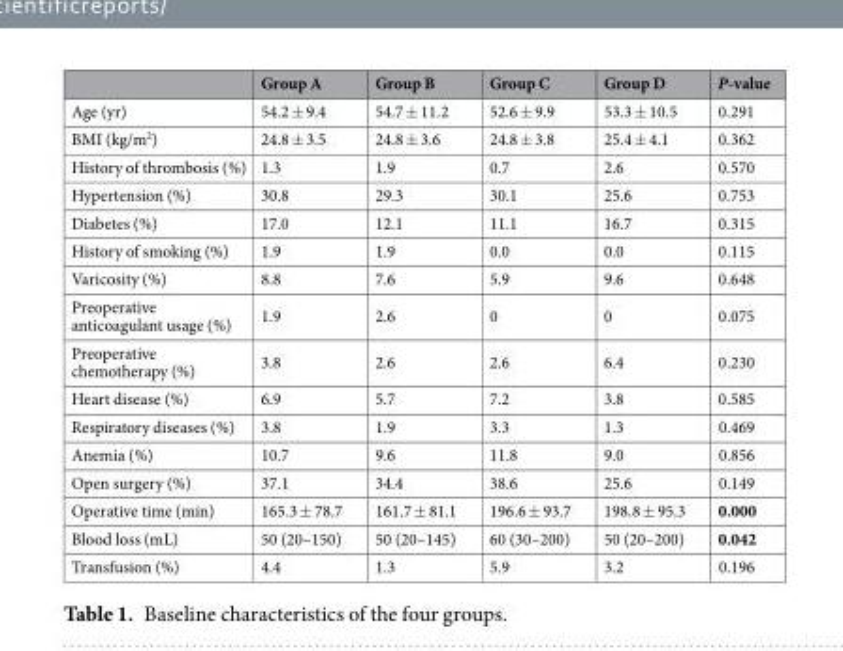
<table><thead><tr><td></td><td>Group A</td><td>Group B</td><td>Group C</td><td>Group D</td><td>P-value</td></tr></thead><tbody><tr><td>Age (yr)</td><td>54.2 ± 9.4</td><td>54.7 ± 11.2</td><td>52.6 ± 9.9</td><td>53.3 ± 10.5</td><td>0.291</td></tr><tr><td>BMI (kg/m<sup>2</sup>)</td><td>24.8 ± 3.5</td><td>24.8 ± 3.6</td><td>24.8 ± 3.8</td><td>25.4 ± 4.1</td><td>0.362</td></tr><tr><td>History of thrombosis (%)</td><td>1.3</td><td>1.9</td><td>0.7</td><td>2.6</td><td>0.570</td></tr><tr><td>Hypertension (%)</td><td>30.8</td><td>29.3</td><td>30.1</td><td>25.6</td><td>0.753</td></tr><tr><td>Diabetes (%)</td><td>17.0</td><td>12.1</td><td>11.1</td><td>16.7</td><td>0.315</td></tr><tr><td>History of smoking (%)</td><td>1.9</td><td>1.9</td><td>0.0</td><td>0.0</td><td>0.115</td></tr><tr><td>Varicosity (%)</td><td>8.8</td><td>7.6</td><td>5.9</td><td>9.6</td><td>0.648</td></tr><tr><td>Preoperative anticoagulant usage (%)</td><td>1.9</td><td>2.6</td><td>0</td><td>0</td><td>0.075</td></tr><tr><td>Preoperative chemotherapy (%)</td><td>3.8</td><td>2.6</td><td>2.6</td><td>6.4</td><td>0.230</td></tr><tr><td>Heart disease (%)</td><td>6.9</td><td>5.7</td><td>7.2</td><td>3.8</td><td>0.585</td></tr><tr><td>Respiratory diseases (%)</td><td>3.8</td><td>1.9</td><td>3.3</td><td>1.3</td><td>0.469</td></tr><tr><td>Anemia (%)</td><td>10.7</td><td>9.6</td><td>11.8</td><td>9.0</td><td>0.856</td></tr><tr><td>Open surgery (%)</td><td>37.1</td><td>34.4</td><td>38.6</td><td>25.6</td><td>0.149</td></tr><tr><td>Operative time (min)</td><td>165.3 ± 78.7</td><td>161.7 ± 81.1</td><td>196.6 ± 93.7</td><td>198.8 ± 95.3</td><td>0.000</td></tr><tr><td>Blood loss (mL)</td><td>50 (20–150)</td><td>50 (20–145)</td><td>60 (30–200)</td><td>50 (20–200)</td><td>0.042</td></tr><tr><td>Transfusion (%)</td><td>4.4</td><td>1.3</td><td>5.9</td><td>3.2</td><td>0.196</td></tr></tbody></table>